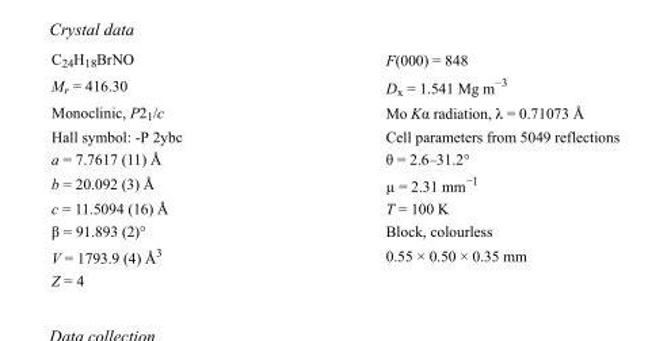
<table><tbody><tr><td>C<sub>24</sub>H<sub>18</sub>BrNO</td><td>F(000) = 848</td></tr><tr><td>M<sub>r</sub> = 416.30</td><td>D<sub>x</sub> = 1.541 Mg m<sup>−3</sup></td></tr><tr><td>Monoclinic, P2<sub>1</sub>/c</td><td>Mo Kα radiation, λ = 0.71073 Å</td></tr><tr><td>Hall symbol: -P 2ybc</td><td>Cell parameters from 5049 reflections</td></tr><tr><td>a = 7.7617 (11) Å</td><td>θ = 2.6–31.2°</td></tr><tr><td>b = 20.092 (3) Å</td><td>µ = 2.31 mm<sup>−1</sup></td></tr><tr><td>c = 11.5094 (16) Å</td><td>T = 100 K</td></tr><tr><td>β = 91.893 (2)°</td><td>Block, colourless</td></tr><tr><td>V = 1793.9 (4) Å<sup>3</sup></td><td>0.55 × 0.50 × 0.35 mm</td></tr><tr><td>Z = 4</td><td></td></tr></tbody></table>